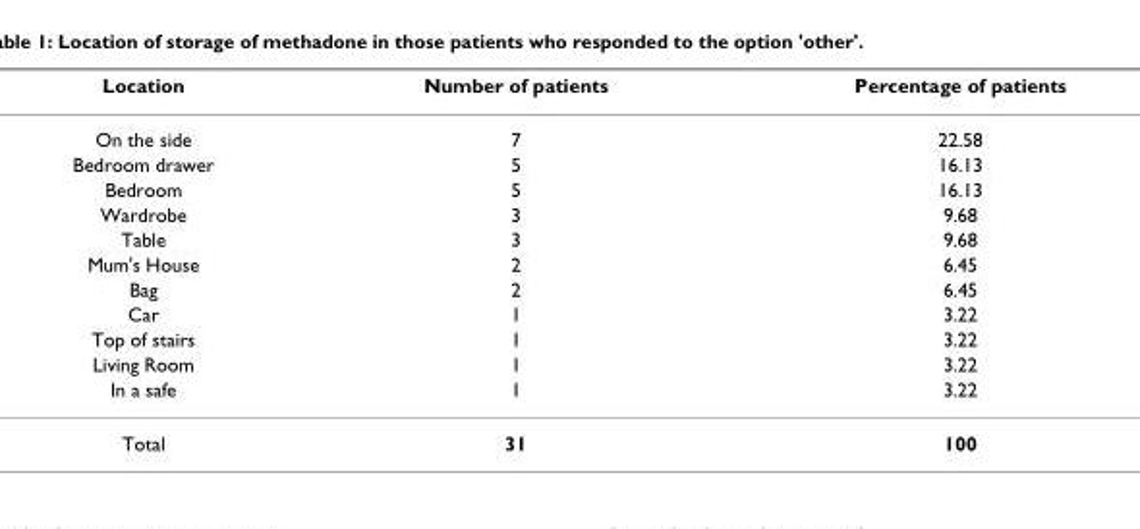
<table><thead><tr><td>Location</td><td>Number of patients</td><td>Percentage of patients</td></tr></thead><tbody><tr><td>On the side</td><td>7</td><td>22.58</td></tr><tr><td>Bedroom drawer</td><td>5</td><td>16.13</td></tr><tr><td>Bedroom</td><td>5</td><td>16.13</td></tr><tr><td>Wardrobe</td><td>3</td><td>9.68</td></tr><tr><td>Table</td><td>3</td><td>9.68</td></tr><tr><td>Mum&#x27;s House</td><td>2</td><td>6.45</td></tr><tr><td>Bag</td><td>2</td><td>6.45</td></tr><tr><td>Car</td><td>1</td><td>3.22</td></tr><tr><td>Top of stairs</td><td>1</td><td>3.22</td></tr><tr><td>Living Room</td><td>1</td><td>3.22</td></tr><tr><td>In a safe</td><td>1</td><td>3.22</td></tr><tr><td>Total</td><td>31</td><td>100</td></tr></tbody></table>